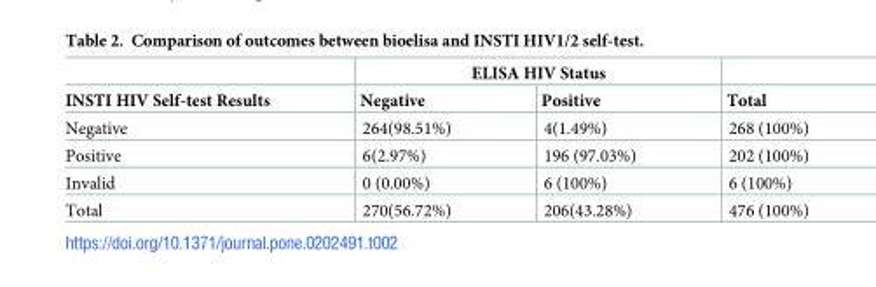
<table><thead><tr><td rowspan="2">INSTI HIV Self-test Results</td><td colspan="2">ELISA HIV Status</td><td rowspan="2">Total</td></tr><tr><td>Negative</td><td>Positive</td></tr></thead><tbody><tr><td>Negative</td><td>264(98.51%)</td><td>4(1.49%)</td><td>268 (100%)</td></tr><tr><td>Positive</td><td>6(2.97%)</td><td>196 (97.03%)</td><td>202 (100%)</td></tr><tr><td>Invalid</td><td>0 (0.00%)</td><td>6 (100%)</td><td>6 (100%)</td></tr><tr><td>Total</td><td>270(56.72%)</td><td>206(43.28%)</td><td>476 (100%)</td></tr></tbody></table>